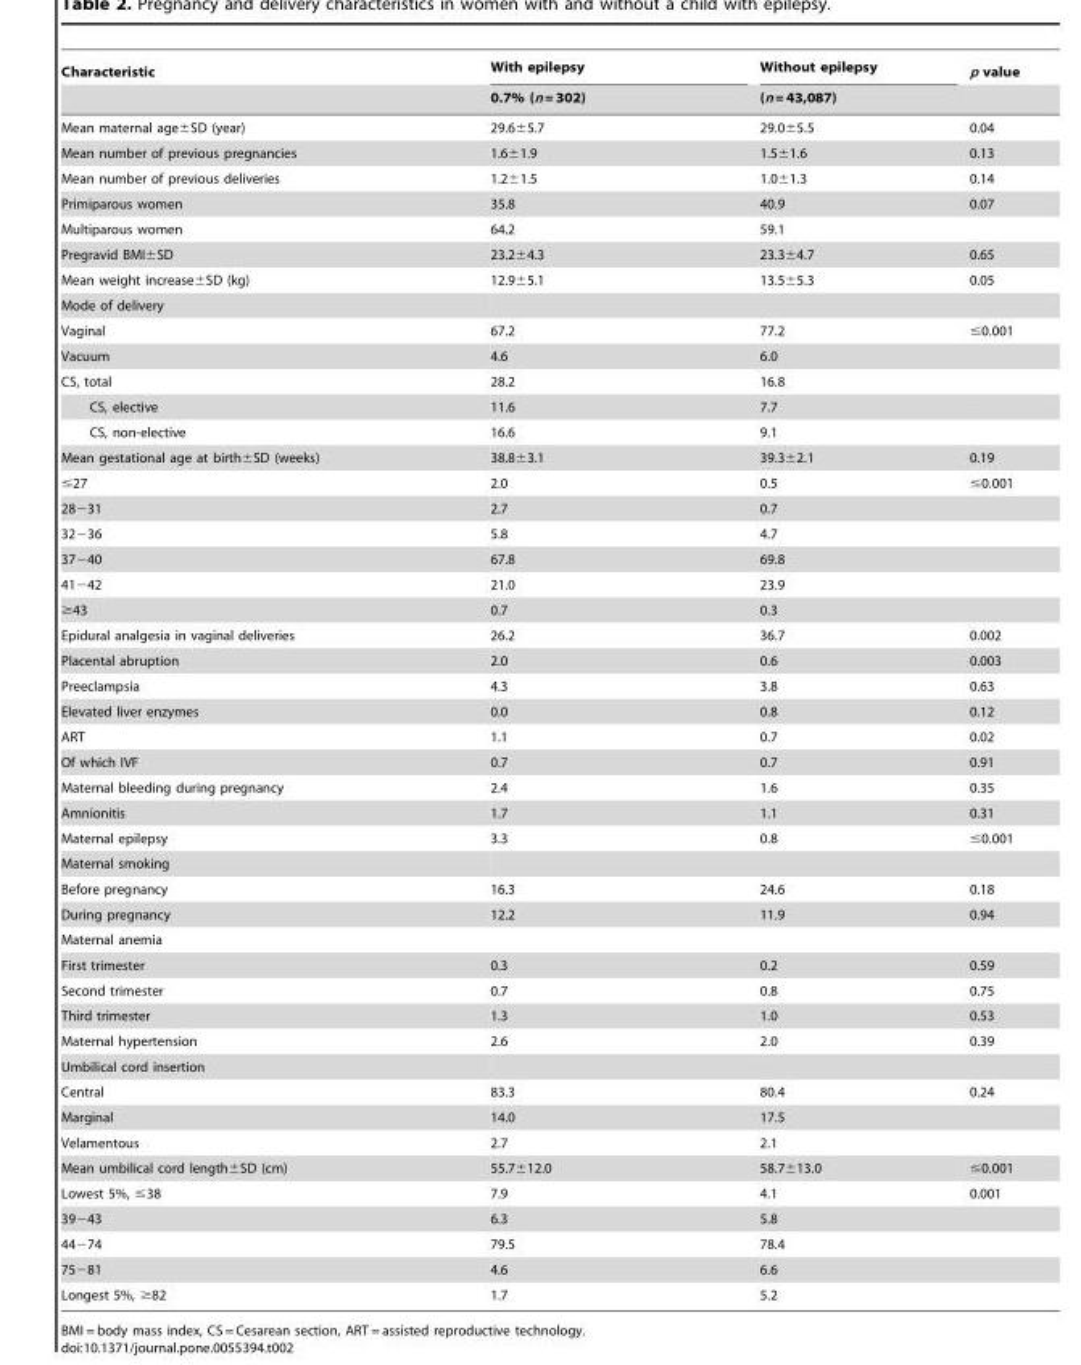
<table><thead><tr><td rowspan="2">Characteristic</td><td rowspan="2">With epilepsy 0.7% (n = 302)</td><td rowspan="2">Without epilepsy (n = 43,087)</td><td rowspan="2">p value</td></tr><tr></tr></thead><tbody><tr><td>Mean maternal age±SD (year)</td><td>29.6±5.7</td><td>29.0±5.5</td><td>0.04</td></tr><tr><td>Mean number of previous pregnancies</td><td>1.6±1.9</td><td>1.5±1.6</td><td>0.13</td></tr><tr><td>Mean number of previous deliveries</td><td>1.2±1.5</td><td>1.0±1.3</td><td>0.14</td></tr><tr><td>Primiparous women</td><td>35.8</td><td>40.9</td><td>0.07</td></tr><tr><td>Multiparous women</td><td>64.2</td><td>59.1</td><td></td></tr><tr><td>Pregravid BMI±SD</td><td>23.2±4.3</td><td>23.3±4.7</td><td>0.65</td></tr><tr><td>Mean weight increase±SD (kg)</td><td>12.9±5.1</td><td>13.5±5.3</td><td>0.05</td></tr><tr><td colspan="4">Mode of delivery</td></tr><tr><td>Vaginal</td><td>67.2</td><td>77.2</td><td>≤0.001</td></tr><tr><td>Vacuum</td><td>4.6</td><td>6.0</td><td></td></tr><tr><td>CS, total</td><td>28.2</td><td>16.8</td><td></td></tr><tr><td>CS, elective</td><td>11.6</td><td>7.7</td><td></td></tr><tr><td>CS, non-elective</td><td>16.6</td><td>9.1</td><td></td></tr><tr><td>Mean gestational age at birth±SD (weeks)</td><td>38.8±3.1</td><td>39.3±2.1</td><td>0.19</td></tr><tr><td>≤27</td><td>2.0</td><td>0.5</td><td>≤0.001</td></tr><tr><td>28−31</td><td>2.7</td><td>0.7</td><td></td></tr><tr><td>32−36</td><td>5.8</td><td>4.7</td><td></td></tr><tr><td>37−40</td><td>67.8</td><td>69.8</td><td></td></tr><tr><td>41−42</td><td>21.0</td><td>23.9</td><td></td></tr><tr><td>≥43</td><td>0.7</td><td>0.3</td><td></td></tr><tr><td>Epidural analgesia in vaginal deliveries</td><td>26.2</td><td>36.7</td><td>0.002</td></tr><tr><td>Placental abruption</td><td>2.0</td><td>0.6</td><td>0.003</td></tr><tr><td>Preeclampsia</td><td>4.3</td><td>3.8</td><td>0.63</td></tr><tr><td>Elevated liver enzymes</td><td>0.0</td><td>0.8</td><td>0.12</td></tr><tr><td>ART</td><td>1.1</td><td>0.7</td><td>0.02</td></tr><tr><td>Of which IVF</td><td>0.7</td><td>0.7</td><td>0.91</td></tr><tr><td>Maternal bleeding during pregnancy</td><td>2.4</td><td>1.6</td><td>0.35</td></tr><tr><td>Amnionitis</td><td>1.7</td><td>1.1</td><td>0.31</td></tr><tr><td>Maternal epilepsy</td><td>3.3</td><td>0.8</td><td>≤0.001</td></tr><tr><td colspan="4">Maternal smoking</td></tr><tr><td>Before pregnancy</td><td>16.3</td><td>24.6</td><td>0.18</td></tr><tr><td>During pregnancy</td><td>12.2</td><td>11.9</td><td>0.94</td></tr><tr><td colspan="4">Maternal anemia</td></tr><tr><td>First trimester</td><td>0.3</td><td>0.2</td><td>0.59</td></tr><tr><td>Second trimester</td><td>0.7</td><td>0.8</td><td>0.75</td></tr><tr><td>Third trimester</td><td>1.3</td><td>1.0</td><td>0.53</td></tr><tr><td>Maternal hypertension</td><td>2.6</td><td>2.0</td><td>0.39</td></tr><tr><td colspan="4">Umbilical cord insertion</td></tr><tr><td>Central</td><td>83.3</td><td>80.4</td><td>0.24</td></tr><tr><td>Marginal</td><td>14.0</td><td>17.5</td><td></td></tr><tr><td>Velamentous</td><td>2.7</td><td>2.1</td><td></td></tr><tr><td>Mean umbilical cord length±SD (cm)</td><td>55.7±12.0</td><td>58.7±13.0</td><td>≤0.001</td></tr><tr><td>Lowest 5%, ≤38</td><td>7.9</td><td>4.1</td><td>0.001</td></tr><tr><td>39−43</td><td>6.3</td><td>5.8</td><td></td></tr><tr><td>44−74</td><td>79.5</td><td>78.4</td><td></td></tr><tr><td>75−81</td><td>4.6</td><td>6.6</td><td></td></tr><tr><td>Longest 5%, ≥82</td><td>1.7</td><td>5.2</td><td></td></tr></tbody></table>